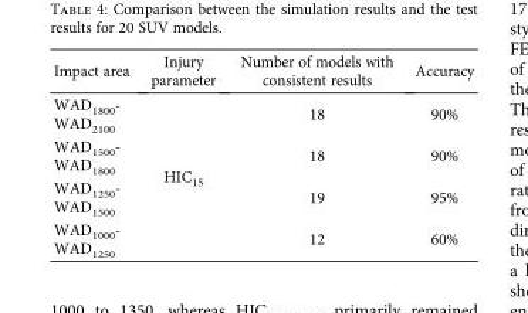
<table><thead><tr><td>Impact area</td><td>Injury parameter</td><td>Number of models with consistent results</td><td>Accuracy</td></tr></thead><tbody><tr><td>WAD<sub>1800</sub>- WAD<sub>2100</sub></td><td rowspan="4">HIC<sub>15</sub></td><td>18</td><td>90%</td></tr><tr><td>WAD<sub>1500</sub>- WAD<sub>1800</sub></td><td>18</td><td>90%</td></tr><tr><td>WAD<sub>1250</sub>- WAD<sub>1500</sub></td><td>19</td><td>95%</td></tr><tr><td>WAD<sub>1000</sub>- WAD<sub>1250</sub></td><td>12</td><td>60%</td></tr></tbody></table>